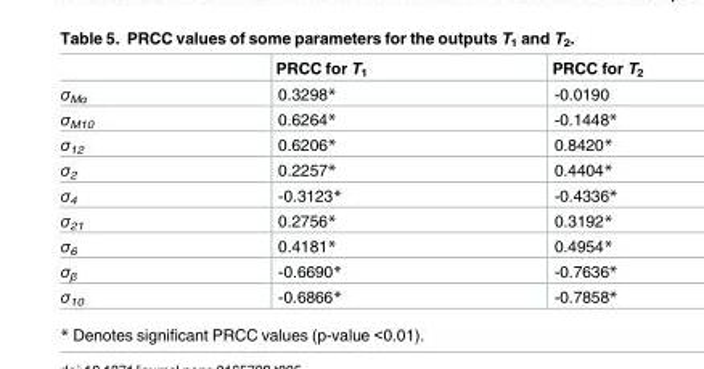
<table><thead><tr><td></td><td>PRCC for T<sub>1</sub></td><td>PRCC for T<sub>2</sub></td></tr></thead><tbody><tr><td>σ<sub>Mα</sub></td><td>0.3298*</td><td>-0.0190</td></tr><tr><td>σ<sub>M10</sub></td><td>0.6264*</td><td>-0.1448*</td></tr><tr><td>σ<sub>12</sub></td><td>0.6206*</td><td>0.8420*</td></tr><tr><td>σ<sub>2</sub></td><td>0.2257*</td><td>0.4404*</td></tr><tr><td>σ<sub>4</sub></td><td>-0.3123*</td><td>-0.4336*</td></tr><tr><td>σ<sub>21</sub></td><td>0.2756*</td><td>0.3192*</td></tr><tr><td>σ<sub>6</sub></td><td>0.4181*</td><td>0.4954*</td></tr><tr><td>σ<sub>β</sub></td><td>-0.6690*</td><td>-0.7636*</td></tr><tr><td>σ<sub>10</sub></td><td>-0.6866*</td><td>-0.7858*</td></tr></tbody></table>